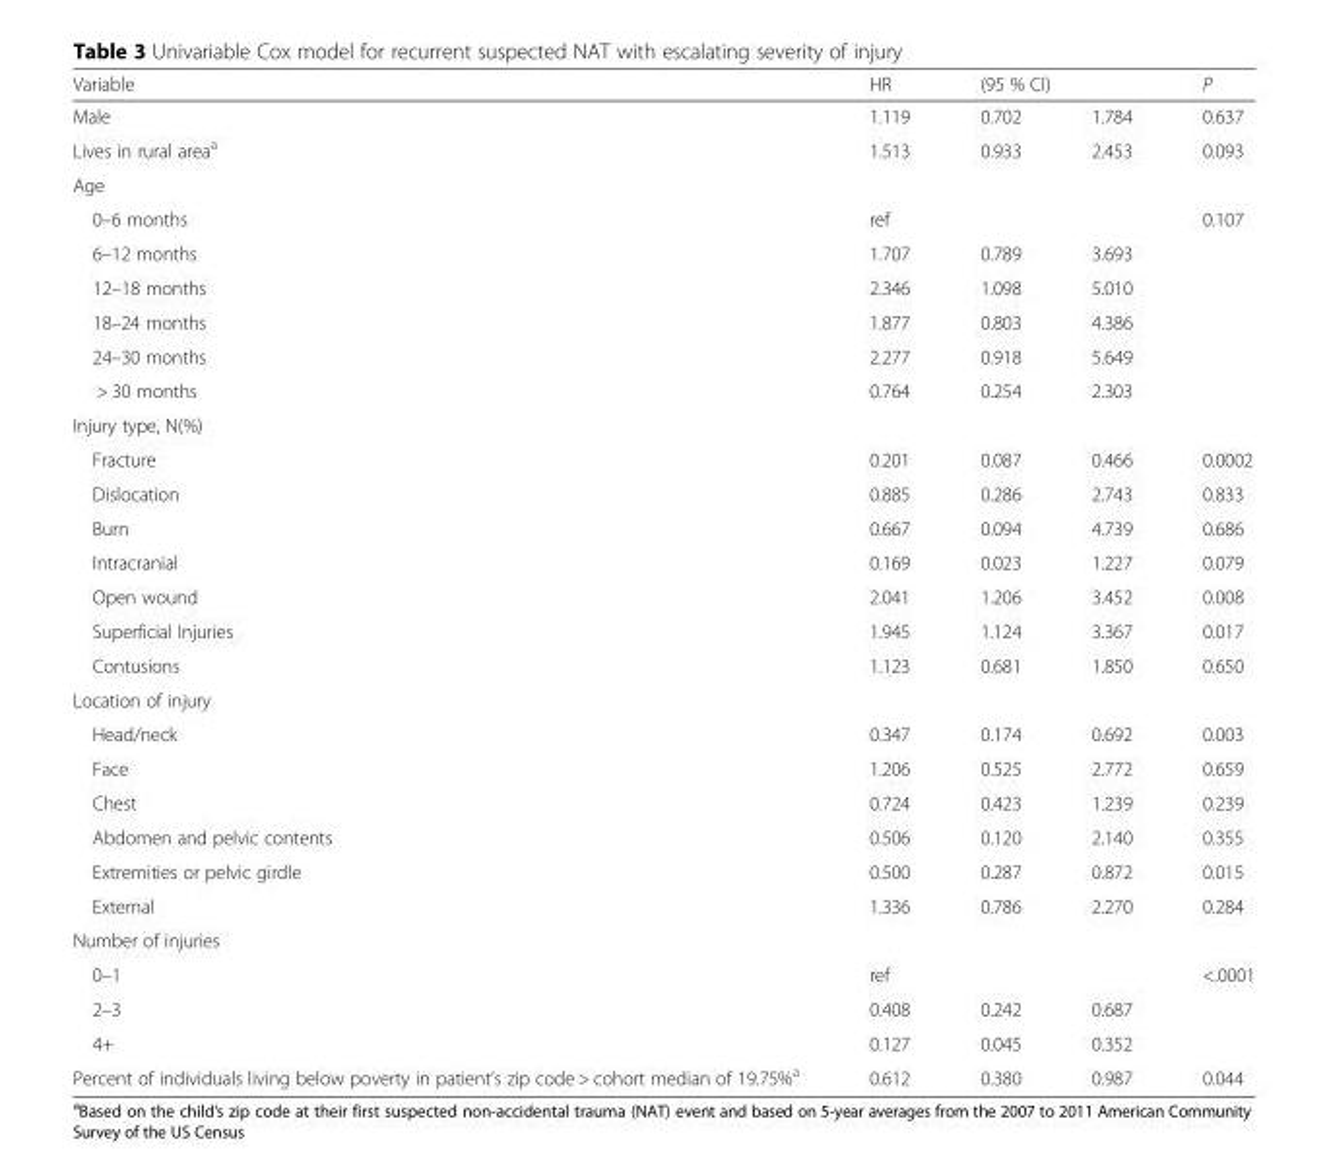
<table><thead><tr><td rowspan="2">Variable Male</td><td rowspan="2">HR 1.119</td><td colspan="2">(95 % CI)</td><td rowspan="2">P 0.637</td></tr><tr><td>0.702</td><td>1.784</td></tr></thead><tbody><tr><td>Lives in rural area<sup>a</sup></td><td>1.513</td><td>0.933</td><td>2.453</td><td>0.093</td></tr><tr><td colspan="5">Age</td></tr><tr><td>0–6 months</td><td>ref</td><td></td><td></td><td>0.107</td></tr><tr><td>6–12 months</td><td>1.707</td><td>0.789</td><td>3.693</td><td></td></tr><tr><td>12–18 months</td><td>2.346</td><td>1.098</td><td>5.010</td><td></td></tr><tr><td>18–24 months</td><td>1.877</td><td>0.803</td><td>4.386</td><td></td></tr><tr><td>24–30 months</td><td>2.277</td><td>0.918</td><td>5.649</td><td></td></tr><tr><td>&gt; 30 months</td><td>0.764</td><td>0.254</td><td>2.303</td><td></td></tr><tr><td colspan="5">Injury type, N(%)</td></tr><tr><td>Fracture</td><td>0.201</td><td>0.087</td><td>0.466</td><td>0.0002</td></tr><tr><td>Dislocation</td><td>0.885</td><td>0.286</td><td>2.743</td><td>0.833</td></tr><tr><td>Burn</td><td>0.667</td><td>0.094</td><td>4.739</td><td>0.686</td></tr><tr><td>Intracranial</td><td>0.169</td><td>0.023</td><td>1.227</td><td>0.079</td></tr><tr><td>Open wound</td><td>2.041</td><td>1.206</td><td>3.452</td><td>0.008</td></tr><tr><td>Superficial Injuries</td><td>1.945</td><td>1.124</td><td>3.367</td><td>0.017</td></tr><tr><td>Contusions</td><td>1.123</td><td>0.681</td><td>1.850</td><td>0.650</td></tr><tr><td colspan="5">Location of injury</td></tr><tr><td>Head/neck</td><td>0.347</td><td>0.174</td><td>0.692</td><td>0.003</td></tr><tr><td>Face</td><td>1.206</td><td>0.525</td><td>2.772</td><td>0.659</td></tr><tr><td>Chest</td><td>0.724</td><td>0.423</td><td>1.239</td><td>0.239</td></tr><tr><td>Abdomen and pelvic contents</td><td>0.506</td><td>0.120</td><td>2.140</td><td>0.355</td></tr><tr><td>Extremities or pelvic girdle</td><td>0.500</td><td>0.287</td><td>0.872</td><td>0.015</td></tr><tr><td>External</td><td>1.336</td><td>0.786</td><td>2.270</td><td>0.284</td></tr><tr><td colspan="5">Number of injuries</td></tr><tr><td>0–1</td><td>ref</td><td></td><td></td><td>&lt;.0001</td></tr><tr><td>2–3</td><td>0.408</td><td>0.242</td><td>0.687</td><td></td></tr><tr><td>4+</td><td>0.127</td><td>0.045</td><td>0.352</td><td></td></tr><tr><td>Percent of individuals living below poverty in patient’s zip code &gt; cohort median of 19.75%<sup>a</sup></td><td>0.612</td><td>0.380</td><td>0.987</td><td>0.044</td></tr></tbody></table>